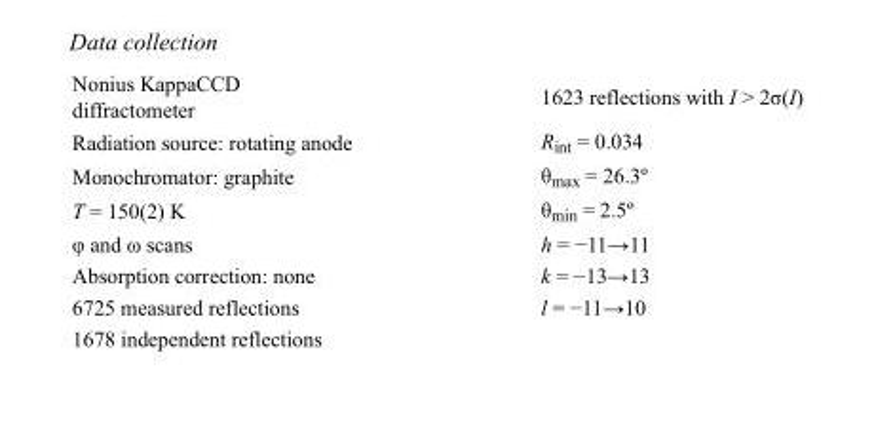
<table><tbody><tr><td>Nonius KappaCCD diffractometer</td><td>1623 reflections with I &gt; 2σ(I)</td></tr><tr><td>Radiation source: rotating anode</td><td>R<sub>int</sub> = 0.034</td></tr><tr><td>Monochromator: graphite</td><td>θ<sub>max</sub> = 26.3º</td></tr><tr><td>T = 150(2) K</td><td>θ<sub>min</sub> = 2.5º</td></tr><tr><td>φ and ω scans</td><td>h = −11→11</td></tr><tr><td>Absorption correction: none</td><td>k = −13→13</td></tr><tr><td>6725 measured reflections</td><td>l = −11→10</td></tr><tr><td>1678 independent reflections</td><td></td></tr></tbody></table>